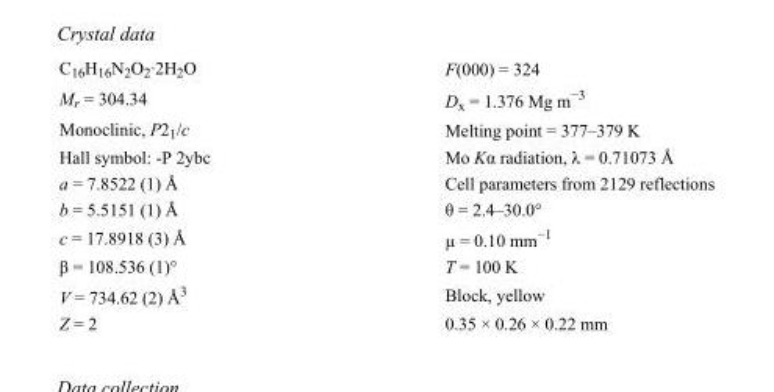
<table><tbody><tr><td>C<sub>16</sub>H<sub>16</sub>N<sub>2</sub>O<sub>2</sub>·2H<sub>2</sub>O</td><td>F(000) = 324</td></tr><tr><td>M<sub>r</sub> = 304.34</td><td>D<sub>x</sub> = 1.376 Mg m<sup>−3</sup></td></tr><tr><td>Monoclinic, P2<sub>1</sub>/c</td><td>Melting point = 377–379 K</td></tr><tr><td>Hall symbol: -P 2ybc</td><td>Mo Kα radiation, λ = 0.71073 Å</td></tr><tr><td>a = 7.8522 (1) Å</td><td>Cell parameters from 2129 reflections</td></tr><tr><td>b = 5.5151 (1) Å</td><td>θ = 2.4–30.0°</td></tr><tr><td>c = 17.8918 (3) Å</td><td>µ = 0.10 mm<sup>−1</sup></td></tr><tr><td>β = 108.536 (1)°</td><td>T = 100 K</td></tr><tr><td>V = 734.62 (2) Å<sup>3</sup></td><td>Block, yellow</td></tr><tr><td>Z = 2</td><td>0.35 × 0.26 × 0.22 mm</td></tr></tbody></table>